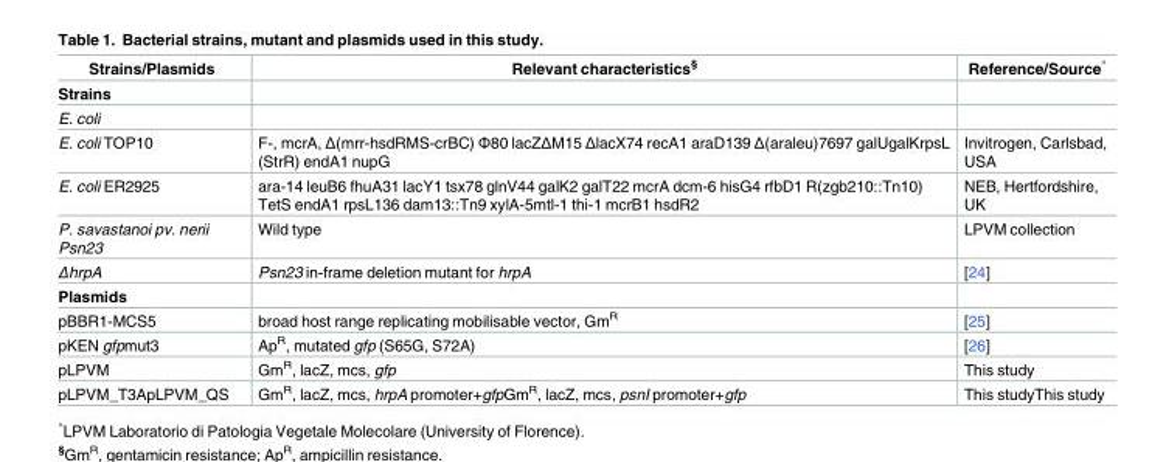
<table><thead><tr><td>Strains/Plasmids</td><td>Relevant characteristics<sup>§</sup></td><td>Reference/Source<sup>˄</sup></td></tr></thead><tbody><tr><td colspan="3">Strains</td></tr><tr><td colspan="3">E. coli</td></tr><tr><td>E. coli TOP10</td><td>F-, mcrA, Δ(mrr-hsdRMS-crBC) Φ80 lacZΔM15 ΔlacX74 recA1 araD139 Δ(araleu)7697 galUgalKrpsL (StrR) endA1 nupG</td><td>Invitrogen, Carlsbad, USA</td></tr><tr><td>E. coli ER2925</td><td>ara-14 leuB6 fhuA31 lacY1 tsx78 glnV44 galK2 galT22 mcrA dcm-6 hisG4 rfbD1 R(zgb210::Tn10) TetS endA1 rpsL136 dam13::Tn9 xylA-5mtl-1 thi-1 mcrB1 hsdR2</td><td>NEB, Hertfordshire, UK</td></tr><tr><td>P. savastanoi pv. nerii Psn23</td><td>Wild type</td><td>LPVM collection</td></tr><tr><td>ΔhrpA</td><td>Psn23 in-frame deletion mutant for hrpA</td><td>[24]</td></tr><tr><td colspan="3">Plasmids</td></tr><tr><td>pBBR1-MCS5</td><td>broad host range replicating mobilisable vector, Gm<sup>R</sup></td><td>[25]</td></tr><tr><td>pKEN gfpmut3</td><td>Ap<sup>R</sup>, mutated gfp (S65G, S72A)</td><td>[26]</td></tr><tr><td>pLPVM</td><td>Gm<sup>R</sup>, lacZ, mcs, gfp</td><td>This study</td></tr><tr><td>pLPVM_T3ApLPVM_QS</td><td>Gm<sup>R</sup>, lacZ, mcs, hrpA promoter+gfpGm<sup>R</sup>, lacZ, mcs, psnI promoter+gfp</td><td>This studyThis study</td></tr></tbody></table>